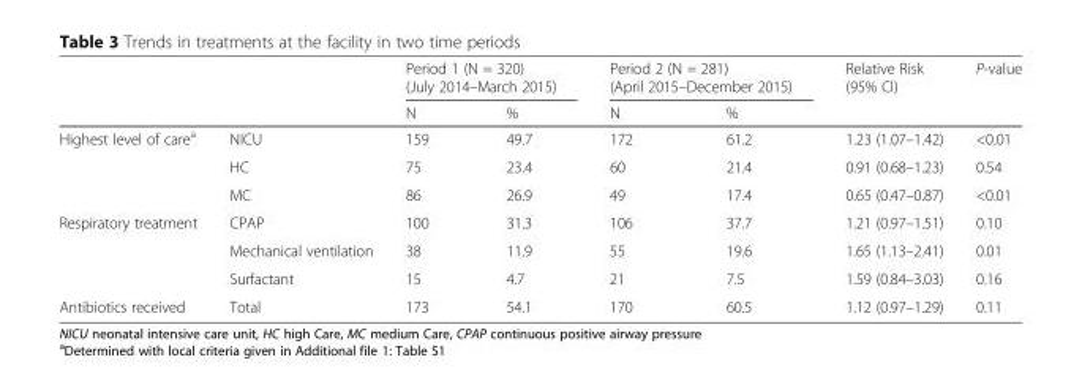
<table><thead><tr><td rowspan="2"></td><td rowspan="2"></td><td colspan="2">Period 1 (N = 320) (July 2014–March 2015)</td><td colspan="2">Period 2 (N = 281) (April 2015–December 2015)</td><td rowspan="2">Relative Risk (95% CI)</td><td rowspan="2">P-value</td></tr><tr><td>N</td><td>%</td><td>N</td><td>%</td></tr></thead><tbody><tr><td rowspan="3">Highest level of care<sup>a</sup></td><td>NICU</td><td>159</td><td>49.7</td><td>172</td><td>61.2</td><td>1.23 (1.07–1.42)</td><td>&lt;0.01</td></tr><tr><td>HC</td><td>75</td><td>23.4</td><td>60</td><td>21.4</td><td>0.91 (0.68–1.23)</td><td>0.54</td></tr><tr><td>MC</td><td>86</td><td>26.9</td><td>49</td><td>17.4</td><td>0.65 (0.47–0.87)</td><td>&lt;0.01</td></tr><tr><td rowspan="3">Respiratory treatment</td><td>CPAP</td><td>100</td><td>31.3</td><td>106</td><td>37.7</td><td>1.21 (0.97–1.51)</td><td>0.10</td></tr><tr><td>Mechanical ventilation</td><td>38</td><td>11.9</td><td>55</td><td>19.6</td><td>1.65 (1.13–2.41)</td><td>0.01</td></tr><tr><td>Surfactant</td><td>15</td><td>4.7</td><td>21</td><td>7.5</td><td>1.59 (0.84–3.03)</td><td>0.16</td></tr><tr><td>Antibiotics received</td><td>Total</td><td>173</td><td>54.1</td><td>170</td><td>60.5</td><td>1.12 (0.97–1.29)</td><td>0.11</td></tr></tbody></table>